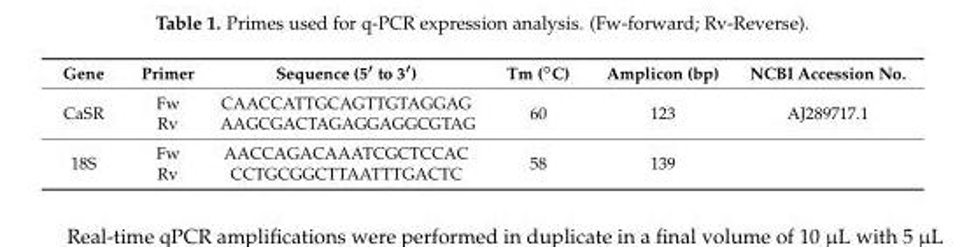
<table><thead><tr><td>Gene</td><td>Primer</td><td>Sequence (5′ to 3′)</td><td>Tm (◦C)</td><td>Amplicon (bp)</td><td>NCBI Accession No.</td></tr></thead><tbody><tr><td>CaSR</td><td>Fw Rv</td><td>CAACCATTGCAGTTGTAGGAG AAGCGACTAGAGGAGGCGTAG</td><td>60</td><td>123</td><td>AJ289717.1</td></tr><tr><td>18S</td><td>Fw Rv</td><td>AACCAGACAAATCGCTCCAC CCTGCGGCTTAATTTGACTC</td><td>58</td><td>139</td><td></td></tr></tbody></table>